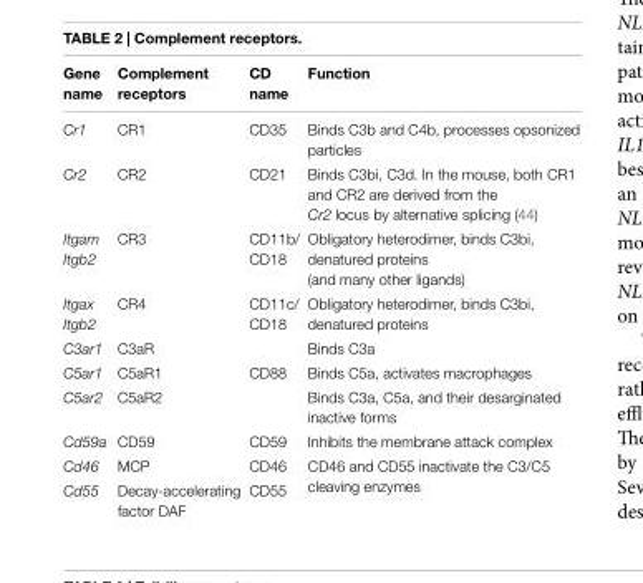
<table><thead><tr><td>Gene name</td><td>Complement receptors</td><td>CD name</td><td>Function</td></tr></thead><tbody><tr><td>Cr1</td><td>CR1</td><td>CD35</td><td>Binds C3b and C4b, processes opsonized particles</td></tr><tr><td>Cr2</td><td>CR2</td><td>CD21</td><td>Binds C3bi, C3d. In the mouse, both CR1 and CR2 are derived from the Cr2 locus by alternative splicing (44)</td></tr><tr><td>Itgam Itgb2</td><td>CR3</td><td>CD11b/ CD18</td><td>Obligatory heterodimer, binds C3bi, denatured proteins (and many other ligands)</td></tr><tr><td>Itgax Itgb2</td><td>CR4</td><td>CD11c/ CD18</td><td>Obligatory heterodimer, binds C3bi, denatured proteins</td></tr><tr><td>C3ar1</td><td>C3aR</td><td></td><td>Binds C3a</td></tr><tr><td>C5ar1</td><td>C5aR1</td><td>CD88</td><td>Binds C5a, activates macrophages</td></tr><tr><td>C5ar2</td><td>C5aR2</td><td></td><td>Binds C3a, C5a, and their desarginated inactive forms</td></tr><tr><td>Cd59a</td><td>CD59</td><td>CD59</td><td>Inhibits the membrane attack complex</td></tr><tr><td>Cd46</td><td>MCP</td><td>CD46</td><td rowspan="2">CD46 and CD55 inactivate the C3/C5 cleaving enzymes</td></tr><tr><td>Cd55</td><td>Decay-accelerating factor DAF</td><td>CD55</td></tr></tbody></table>